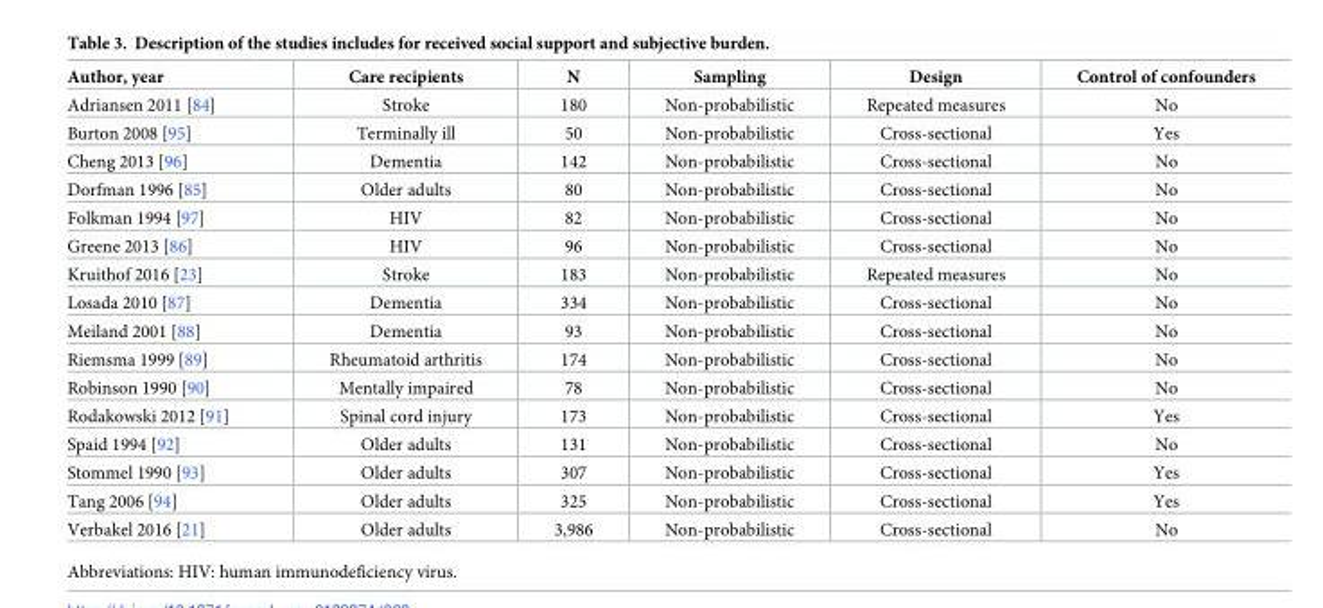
<table><thead><tr><td>Author, year</td><td>Care recipients</td><td>N</td><td>Sampling</td><td>Design</td><td>Control of confounders</td></tr></thead><tbody><tr><td>Adriansen 2011 [84]</td><td>Stroke</td><td>180</td><td>Non-probabilistic</td><td>Repeated measures</td><td>No</td></tr><tr><td>Burton 2008 [95]</td><td>Terminally ill</td><td>50</td><td>Non-probabilistic</td><td>Cross-sectional</td><td>Yes</td></tr><tr><td>Cheng 2013 [96]</td><td>Dementia</td><td>142</td><td>Non-probabilistic</td><td>Cross-sectional</td><td>No</td></tr><tr><td>Dorfman 1996 [85]</td><td>Older adults</td><td>80</td><td>Non-probabilistic</td><td>Cross-sectional</td><td>No</td></tr><tr><td>Folkman 1994 [97]</td><td>HIV</td><td>82</td><td>Non-probabilistic</td><td>Cross-sectional</td><td>No</td></tr><tr><td>Greene 2013 [86]</td><td>HIV</td><td>96</td><td>Non-probabilistic</td><td>Cross-sectional</td><td>No</td></tr><tr><td>Kruithof 2016 [23]</td><td>Stroke</td><td>183</td><td>Non-probabilistic</td><td>Repeated measures</td><td>No</td></tr><tr><td>Losada 2010 [87]</td><td>Dementia</td><td>334</td><td>Non-probabilistic</td><td>Cross-sectional</td><td>No</td></tr><tr><td>Meiland 2001 [88]</td><td>Dementia</td><td>93</td><td>Non-probabilistic</td><td>Cross-sectional</td><td>No</td></tr><tr><td>Riemsma 1999 [89]</td><td>Rheumatoid arthritis</td><td>174</td><td>Non-probabilistic</td><td>Cross-sectional</td><td>No</td></tr><tr><td>Robinson 1990 [90]</td><td>Mentally impaired</td><td>78</td><td>Non-probabilistic</td><td>Cross-sectional</td><td>No</td></tr><tr><td>Rodakowski 2012 [91]</td><td>Spinal cord injury</td><td>173</td><td>Non-probabilistic</td><td>Cross-sectional</td><td>Yes</td></tr><tr><td>Spaid 1994 [92]</td><td>Older adults</td><td>131</td><td>Non-probabilistic</td><td>Cross-sectional</td><td>No</td></tr><tr><td>Stommel 1990 [93]</td><td>Older adults</td><td>307</td><td>Non-probabilistic</td><td>Cross-sectional</td><td>Yes</td></tr><tr><td>Tang 2006 [94]</td><td>Older adults</td><td>325</td><td>Non-probabilistic</td><td>Cross-sectional</td><td>Yes</td></tr><tr><td>Verbakel 2016 [21]</td><td>Older adults</td><td>3,986</td><td>Non-probabilistic</td><td>Cross-sectional</td><td>No</td></tr></tbody></table>